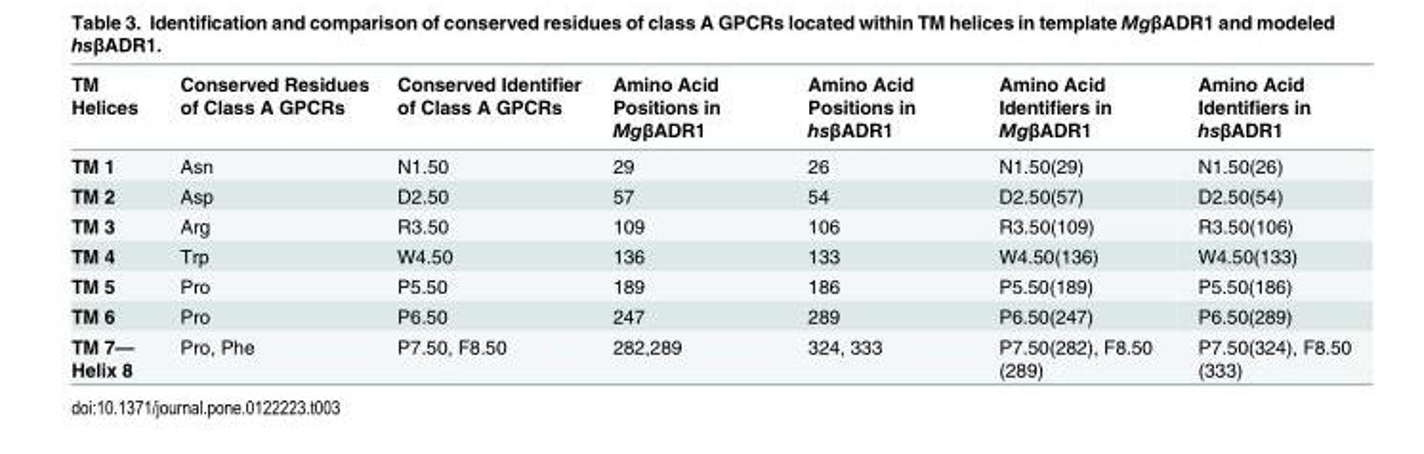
<table><thead><tr><td>TM Helices</td><td>Conserved Residues of Class A GPCRs</td><td>Conserved Identifier of Class A GPCRs</td><td>Amino Acid Positions in MgβADR1</td><td>Amino Acid Positions in hsβADR1</td><td>Amino Acid Identifiers in MgβADR1</td><td>Amino Acid Identifiers in hsβADR1</td></tr></thead><tbody><tr><td>TM 1</td><td>Asn</td><td>N1.50</td><td>29</td><td>26</td><td>N1.50(29)</td><td>N1.50(26)</td></tr><tr><td>TM 2</td><td>Asp</td><td>D2.50</td><td>57</td><td>54</td><td>D2.50(57)</td><td>D2.50(54)</td></tr><tr><td>TM 3</td><td>Arg</td><td>R3.50</td><td>109</td><td>106</td><td>R3.50(109)</td><td>R3.50(106)</td></tr><tr><td>TM 4</td><td>Trp</td><td>W4.50</td><td>136</td><td>133</td><td>W4.50(136)</td><td>W4.50(133)</td></tr><tr><td>TM 5</td><td>Pro</td><td>P5.50</td><td>189</td><td>186</td><td>P5.50(189)</td><td>P5.50(186)</td></tr><tr><td>TM 6</td><td>Pro</td><td>P6.50</td><td>247</td><td>289</td><td>P6.50(247)</td><td>P6.50(289)</td></tr><tr><td>TM 7— Helix 8</td><td>Pro, Phe</td><td>P7.50, F8.50</td><td>282,289</td><td>324, 333</td><td>P7.50(282), F8.50 (289)</td><td>P7.50(324), F8.50 (333)</td></tr></tbody></table>